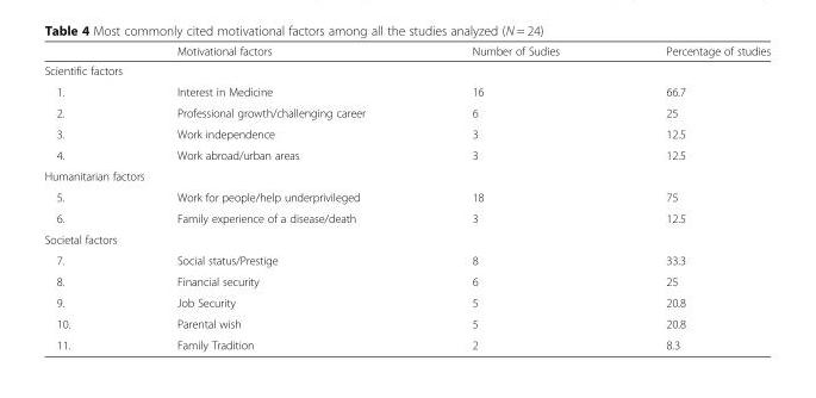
<table><thead><tr><td></td><td>Motivational factors</td><td>Number of Sudies</td><td>Percentage of studies</td></tr></thead><tbody><tr><td colspan="4">Scientific factors</td></tr><tr><td>1.</td><td>Interest in Medicine</td><td>16</td><td>66.7</td></tr><tr><td>2.</td><td>Professional growth/challenging career</td><td>6</td><td>25</td></tr><tr><td>3.</td><td>Work independence</td><td>3</td><td>12.5</td></tr><tr><td>4.</td><td>Work abroad/urban areas</td><td>3</td><td>12.5</td></tr><tr><td colspan="4">Humanitarian factors</td></tr><tr><td>5.</td><td>Work for people/help underprivileged</td><td>18</td><td>75</td></tr><tr><td>6.</td><td>Family experience of a disease/death</td><td>3</td><td>12.5</td></tr><tr><td colspan="4">Societal factors</td></tr><tr><td>7.</td><td>Social status/Prestige</td><td>8</td><td>33.3</td></tr><tr><td>8.</td><td>Financial security</td><td>6</td><td>25</td></tr><tr><td>9.</td><td>Job Security</td><td>5</td><td>20.8</td></tr><tr><td>10.</td><td>Parental wish</td><td>5</td><td>20.8</td></tr><tr><td>11.</td><td>Family Tradition</td><td>2</td><td>8.3</td></tr></tbody></table>